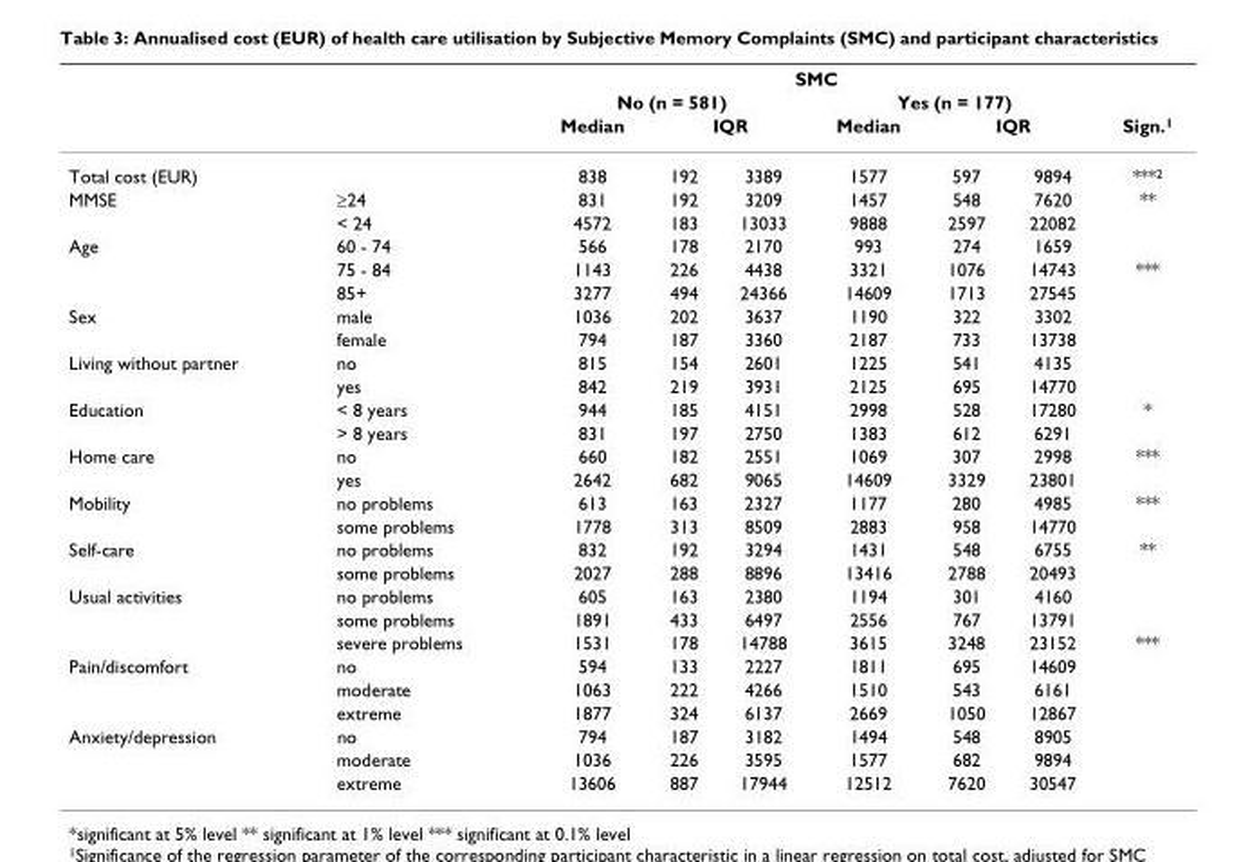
<table><thead><tr><td rowspan="4">Total cost (EUR)</td><td rowspan="4"></td><td colspan="6">SMC</td><td rowspan="4">Sign.1 ***2</td></tr><tr><td colspan="3">No (n = 581)</td><td colspan="3">Yes (n = 177)</td></tr><tr><td rowspan="2">Median 838</td><td colspan="2">IQR</td><td rowspan="2">Median 1577</td><td colspan="2">IQR</td></tr><tr><td>192</td><td>3389</td><td>597</td><td>9894</td></tr></thead><tbody><tr><td rowspan="2">MMSE</td><td>≥24</td><td>831</td><td>192</td><td>3209</td><td>1457</td><td>548</td><td>7620</td><td>**</td></tr><tr><td>&lt; 24</td><td>4572</td><td>183</td><td>13033</td><td>9888</td><td>2597</td><td>22082</td><td></td></tr><tr><td rowspan="3">Age</td><td>60 - 74</td><td>566</td><td>178</td><td>2170</td><td>993</td><td>274</td><td>1659</td><td></td></tr><tr><td>75 - 84</td><td>1143</td><td>226</td><td>4438</td><td>3321</td><td>1076</td><td>14743</td><td>***</td></tr><tr><td>85+</td><td>3277</td><td>494</td><td>24366</td><td>14609</td><td>1713</td><td>27545</td><td></td></tr><tr><td rowspan="2">Sex</td><td>male</td><td>1036</td><td>202</td><td>3637</td><td>1190</td><td>322</td><td>3302</td><td></td></tr><tr><td>female</td><td>794</td><td>187</td><td>3360</td><td>2187</td><td>733</td><td>13738</td><td></td></tr><tr><td rowspan="2">Living without partner</td><td>no</td><td>815</td><td>154</td><td>2601</td><td>1225</td><td>541</td><td>4135</td><td></td></tr><tr><td>yes</td><td>842</td><td>219</td><td>3931</td><td>2125</td><td>695</td><td>14770</td><td></td></tr><tr><td rowspan="2">Education</td><td>&lt; 8 years</td><td>944</td><td>185</td><td>4151</td><td>2998</td><td>528</td><td>17280</td><td>*</td></tr><tr><td>&gt; 8 years</td><td>831</td><td>197</td><td>2750</td><td>1383</td><td>612</td><td>6291</td><td></td></tr><tr><td rowspan="2">Home care</td><td>no</td><td>660</td><td>182</td><td>2551</td><td>1069</td><td>307</td><td>2998</td><td>***</td></tr><tr><td>yes</td><td>2642</td><td>682</td><td>9065</td><td>14609</td><td>3329</td><td>23801</td><td></td></tr><tr><td rowspan="2">Mobility</td><td>no problems</td><td>613</td><td>163</td><td>2327</td><td>1177</td><td>280</td><td>4985</td><td>***</td></tr><tr><td>some problems</td><td>1778</td><td>313</td><td>8509</td><td>2883</td><td>958</td><td>14770</td><td></td></tr><tr><td rowspan="2">Self-care</td><td>no problems</td><td>832</td><td>192</td><td>3294</td><td>1431</td><td>548</td><td>6755</td><td>**</td></tr><tr><td>some problems</td><td>2027</td><td>288</td><td>8896</td><td>13416</td><td>2788</td><td>20493</td><td></td></tr><tr><td rowspan="3">Usual activities</td><td>no problems</td><td>605</td><td>163</td><td>2380</td><td>1194</td><td>301</td><td>4160</td><td></td></tr><tr><td>some problems</td><td>1891</td><td>433</td><td>6497</td><td>2556</td><td>767</td><td>13791</td><td></td></tr><tr><td>severe problems</td><td>1531</td><td>178</td><td>14788</td><td>3615</td><td>3248</td><td>23152</td><td>***</td></tr><tr><td rowspan="3">Pain/discomfort</td><td>no</td><td>594</td><td>133</td><td>2227</td><td>1811</td><td>695</td><td>14609</td><td></td></tr><tr><td>moderate</td><td>1063</td><td>222</td><td>4266</td><td>1510</td><td>543</td><td>6161</td><td></td></tr><tr><td>extreme</td><td>1877</td><td>324</td><td>6137</td><td>2669</td><td>1050</td><td>12867</td><td></td></tr><tr><td rowspan="3">Anxiety/depression</td><td>no</td><td>794</td><td>187</td><td>3182</td><td>1494</td><td>548</td><td>8905</td><td></td></tr><tr><td>moderate</td><td>1036</td><td>226</td><td>3595</td><td>1577</td><td>682</td><td>9894</td><td></td></tr><tr><td>extreme</td><td>13606</td><td>887</td><td>17944</td><td>12512</td><td>7620</td><td>30547</td><td></td></tr></tbody></table>